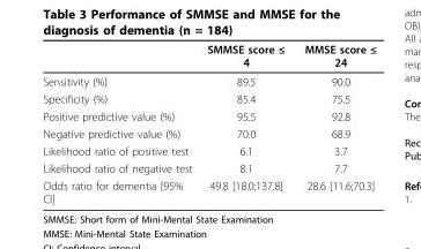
<table><thead><tr><td></td><td>SMMSE score ≤ 4</td><td>MMSE score ≤ 24</td></tr></thead><tbody><tr><td>Sensitivity (%)</td><td>89.5</td><td>90.0</td></tr><tr><td>Specificity (%)</td><td>85.4</td><td>75.5</td></tr><tr><td>Positive predictive value (%)</td><td>95.5</td><td>92.8</td></tr><tr><td>Negative predictive value (%)</td><td>70.0</td><td>68.9</td></tr><tr><td>Likelihood ratio of positive test</td><td>6.1</td><td>3.7</td></tr><tr><td>Likelihood ratio of negative test</td><td>8.1</td><td>7.7</td></tr><tr><td>Odds ratio for dementia [95% CI]</td><td>49.8 [18.0;137.8]</td><td>28.6 [11.6;70.3]</td></tr></tbody></table>